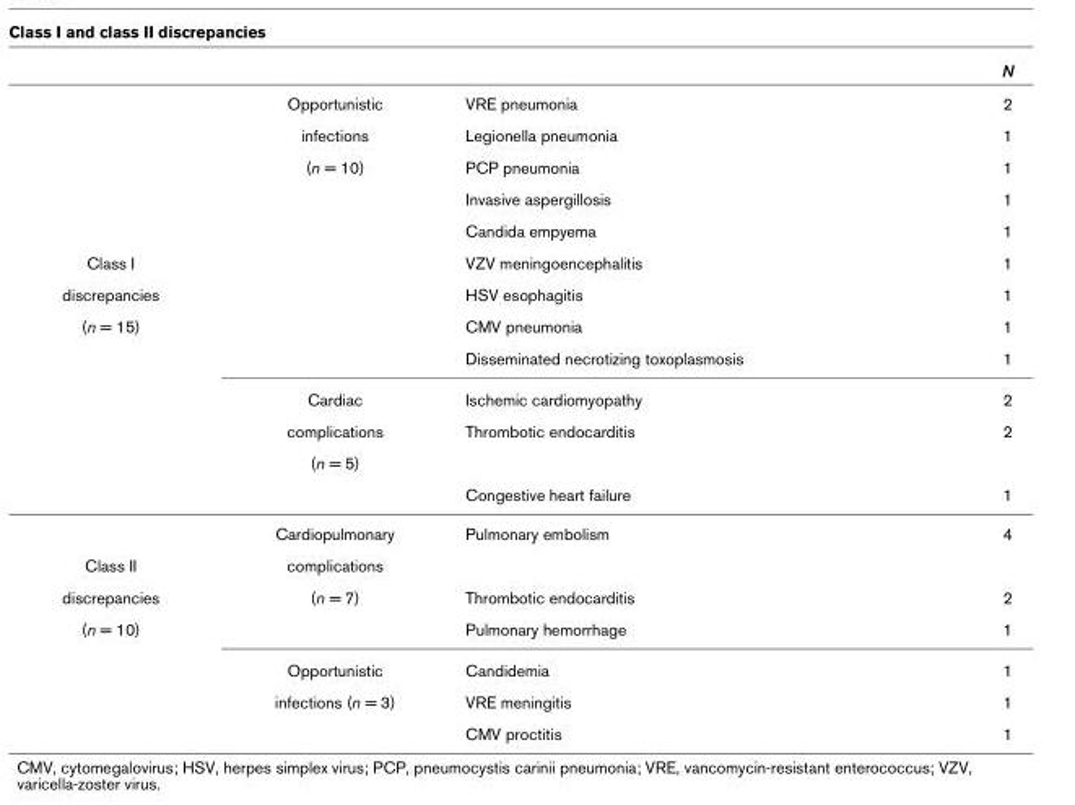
<table><thead><tr><td></td><td></td><td></td><td>N</td></tr></thead><tbody><tr><td></td><td>Opportunistic</td><td>VRE pneumonia</td><td>2</td></tr><tr><td></td><td>infections</td><td>Legionella pneumonia</td><td>1</td></tr><tr><td></td><td>(n = 10)</td><td>PCP pneumonia</td><td>1</td></tr><tr><td></td><td></td><td>Invasive aspergillosis</td><td>1</td></tr><tr><td></td><td></td><td>Candida empyema</td><td>1</td></tr><tr><td>Class I</td><td></td><td>VZV meningoencephalitis</td><td>1</td></tr><tr><td>discrepancies</td><td></td><td>HSV esophagitis</td><td>1</td></tr><tr><td rowspan="7">(n = 15)</td><td></td><td>CMV pneumonia</td><td>1</td></tr><tr><td></td><td>Disseminated necrotizing toxoplasmosis</td><td>1</td></tr><tr><td>Cardiac</td><td>Ischemic cardiomyopathy</td><td>2</td></tr><tr><td>complications</td><td>Thrombotic endocarditis</td><td>2</td></tr><tr><td>(n = 5)</td><td></td><td></td></tr><tr><td></td><td>Congestive heart failure</td><td>1</td></tr><tr><td>Cardiopulmonary</td><td>Pulmonary embolism</td><td>4</td></tr><tr><td>Class II</td><td>complications</td><td></td><td></td></tr><tr><td>discrepancies</td><td>(n = 7)</td><td>Thrombotic endocarditis</td><td>2</td></tr><tr><td rowspan="4">(n = 10)</td><td></td><td>Pulmonary hemorrhage</td><td>1</td></tr><tr><td>Opportunistic</td><td>Candidemia</td><td>1</td></tr><tr><td>infections (n = 3)</td><td>VRE meningitis</td><td>1</td></tr><tr><td></td><td>CMV proctitis</td><td>1</td></tr></tbody></table>